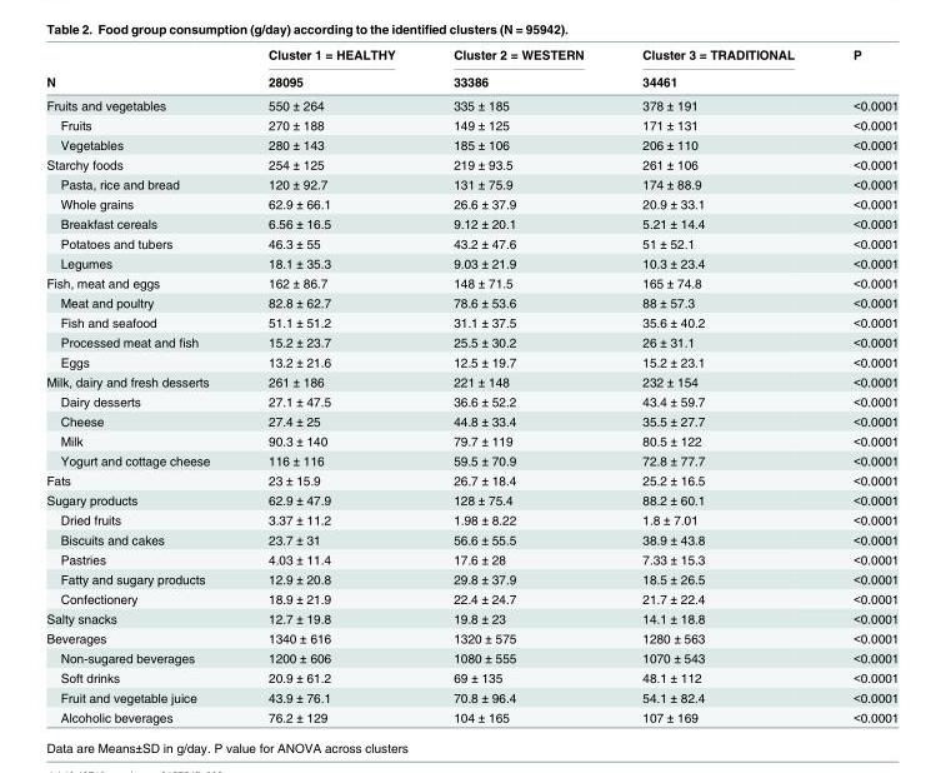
<table><thead><tr><td rowspan="2">N</td><td rowspan="2">Cluster 1 = HEALTHY 28095</td><td rowspan="2">Cluster 2 = WESTERN 33386</td><td rowspan="2">Cluster 3 = TRADITIONAL 34461</td><td rowspan="2">P</td></tr><tr></tr></thead><tbody><tr><td>Fruits and vegetables</td><td>550 ± 264</td><td>335 ± 185</td><td>378 ± 191</td><td>&lt;0.0001</td></tr><tr><td>Fruits</td><td>270 ± 188</td><td>149 ± 125</td><td>171 ± 131</td><td>&lt;0.0001</td></tr><tr><td>Vegetables</td><td>280 ± 143</td><td>185 ± 106</td><td>206 ± 110</td><td>&lt;0.0001</td></tr><tr><td>Starchy foods</td><td>254 ± 125</td><td>219 ± 93.5</td><td>261 ± 106</td><td>&lt;0.0001</td></tr><tr><td>Pasta, rice and bread</td><td>120 ± 92.7</td><td>131 ± 75.9</td><td>174 ± 88.9</td><td>&lt;0.0001</td></tr><tr><td>Whole grains</td><td>62.9 ± 66.1</td><td>26.6 ± 37.9</td><td>20.9 ± 33.1</td><td>&lt;0.0001</td></tr><tr><td>Breakfast cereals</td><td>6.56 ± 16.5</td><td>9.12 ± 20.1</td><td>5.21 ± 14.4</td><td>&lt;0.0001</td></tr><tr><td>Potatoes and tubers</td><td>46.3 ± 55</td><td>43.2 ± 47.6</td><td>51 ± 52.1</td><td>&lt;0.0001</td></tr><tr><td>Legumes</td><td>18.1 ± 35.3</td><td>9.03 ± 21.9</td><td>10.3 ± 23.4</td><td>&lt;0.0001</td></tr><tr><td>Fish, meat and eggs</td><td>162 ± 86.7</td><td>148 ± 71.5</td><td>165 ± 74.8</td><td>&lt;0.0001</td></tr><tr><td>Meat and poultry</td><td>82.8 ± 62.7</td><td>78.6 ± 53.6</td><td>88 ± 57.3</td><td>&lt;0.0001</td></tr><tr><td>Fish and seafood</td><td>51.1 ± 51.2</td><td>31.1 ± 37.5</td><td>35.6 ± 40.2</td><td>&lt;0.0001</td></tr><tr><td>Processed meat and fish</td><td>15.2 ± 23.7</td><td>25.5 ± 30.2</td><td>26 ± 31.1</td><td>&lt;0.0001</td></tr><tr><td>Eggs</td><td>13.2 ± 21.6</td><td>12.5 ± 19.7</td><td>15.2 ± 23.1</td><td>&lt;0.0001</td></tr><tr><td>Milk, dairy and fresh desserts</td><td>261 ± 186</td><td>221 ± 148</td><td>232 ± 154</td><td>&lt;0.0001</td></tr><tr><td>Dairy desserts</td><td>27.1 ± 47.5</td><td>36.6 ± 52.2</td><td>43.4 ± 59.7</td><td>&lt;0.0001</td></tr><tr><td>Cheese</td><td>27.4 ± 25</td><td>44.8 ± 33.4</td><td>35.5 ± 27.7</td><td>&lt;0.0001</td></tr><tr><td>Milk</td><td>90.3 ± 140</td><td>79.7 ± 119</td><td>80.5 ± 122</td><td>&lt;0.0001</td></tr><tr><td>Yogurt and cottage cheese</td><td>116 ± 116</td><td>59.5 ± 70.9</td><td>72.8 ± 77.7</td><td>&lt;0.0001</td></tr><tr><td>Fats</td><td>23 ± 15.9</td><td>26.7 ± 18.4</td><td>25.2 ± 16.5</td><td>&lt;0.0001</td></tr><tr><td>Sugary products</td><td>62.9 ± 47.9</td><td>128 ± 75.4</td><td>88.2 ± 60.1</td><td>&lt;0.0001</td></tr><tr><td>Dried fruits</td><td>3.37 ± 11.2</td><td>1.98 ± 8.22</td><td>1.8 ± 7.01</td><td>&lt;0.0001</td></tr><tr><td>Biscuits and cakes</td><td>23.7 ± 31</td><td>56.6 ± 55.5</td><td>38.9 ± 43.8</td><td>&lt;0.0001</td></tr><tr><td>Pastries</td><td>4.03 ± 11.4</td><td>17.6 ± 28</td><td>7.33 ± 15.3</td><td>&lt;0.0001</td></tr><tr><td>Fatty and sugary products</td><td>12.9 ± 20.8</td><td>29.8 ± 37.9</td><td>18.5 ± 26.5</td><td>&lt;0.0001</td></tr><tr><td>Confectionery</td><td>18.9 ± 21.9</td><td>22.4 ± 24.7</td><td>21.7 ± 22.4</td><td>&lt;0.0001</td></tr><tr><td>Salty snacks</td><td>12.7 ± 19.8</td><td>19.8 ± 23</td><td>14.1 ± 18.8</td><td>&lt;0.0001</td></tr><tr><td>Beverages</td><td>1340 ± 616</td><td>1320 ± 575</td><td>1280 ± 563</td><td>&lt;0.0001</td></tr><tr><td>Non-sugared beverages</td><td>1200 ± 606</td><td>1080 ± 555</td><td>1070 ± 543</td><td>&lt;0.0001</td></tr><tr><td>Soft drinks</td><td>20.9 ± 61.2</td><td>69 ± 135</td><td>48.1 ± 112</td><td>&lt;0.0001</td></tr><tr><td>Fruit and vegetable juice</td><td>43.9 ± 76.1</td><td>70.8 ± 96.4</td><td>54.1 ± 82.4</td><td>&lt;0.0001</td></tr><tr><td>Alcoholic beverages</td><td>76.2 ± 129</td><td>104 ± 165</td><td>107 ± 169</td><td>&lt;0.0001</td></tr></tbody></table>